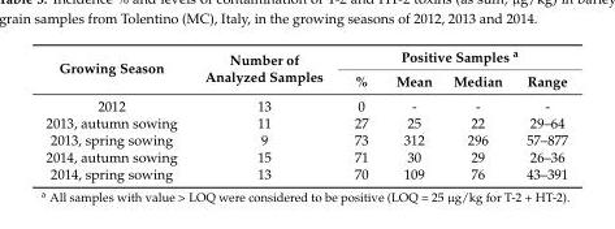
<table><thead><tr><td rowspan="2">Growing Season</td><td rowspan="2">Number of Analyzed Samples</td><td colspan="4">Positive Samples <sup>a</sup></td></tr><tr><td>%</td><td>Mean</td><td>Median</td><td>Range</td></tr></thead><tbody><tr><td>2012</td><td>13</td><td>0</td><td>-</td><td>-</td><td>-</td></tr><tr><td>2013, autumn sowing</td><td>11</td><td>27</td><td>25</td><td>22</td><td>29–64</td></tr><tr><td>2013, spring sowing</td><td>9</td><td>73</td><td>312</td><td>296</td><td>57–877</td></tr><tr><td>2014, autumn sowing</td><td>15</td><td>71</td><td>30</td><td>29</td><td>26–36</td></tr><tr><td>2014, spring sowing</td><td>13</td><td>70</td><td>109</td><td>76</td><td>43–391</td></tr></tbody></table>